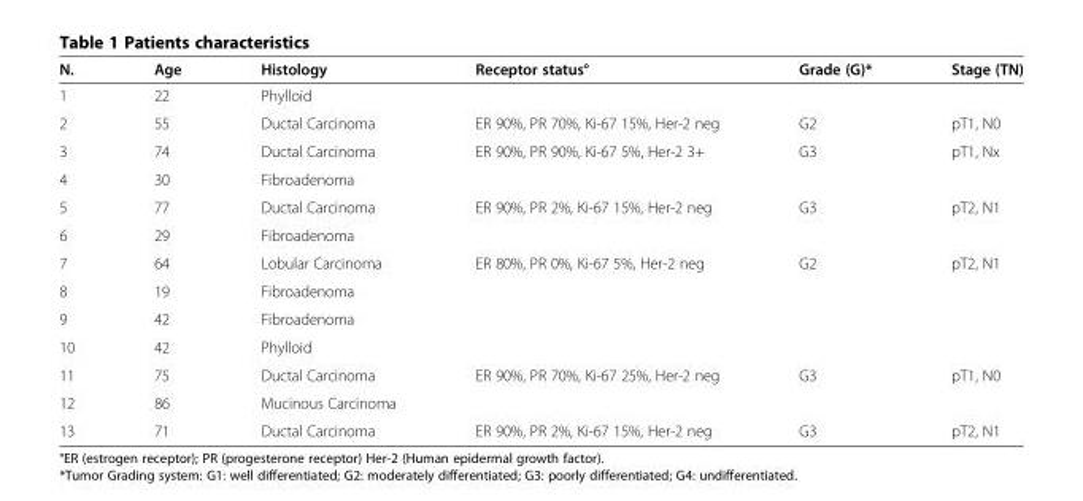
<table><thead><tr><td>N.</td><td>Age</td><td>Histology</td><td>Receptor status°</td><td>Grade (G)*</td><td>Stage (TN)</td></tr></thead><tbody><tr><td>1</td><td>22</td><td>Phylloid</td><td></td><td></td><td></td></tr><tr><td>2</td><td>55</td><td>Ductal Carcinoma</td><td>ER 90%, PR 70%, Ki-67 15%, Her-2 neg</td><td>G2</td><td>pT1, N0</td></tr><tr><td>3</td><td>74</td><td>Ductal Carcinoma</td><td>ER 90%, PR 90%, Ki-67 5%, Her-2 3+</td><td>G3</td><td>pT1, Nx</td></tr><tr><td>4</td><td>30</td><td>Fibroadenoma</td><td></td><td></td><td></td></tr><tr><td>5</td><td>77</td><td>Ductal Carcinoma</td><td>ER 90%, PR 2%, Ki-67 15%, Her-2 neg</td><td>G3</td><td>pT2, N1</td></tr><tr><td>6</td><td>29</td><td>Fibroadenoma</td><td></td><td></td><td></td></tr><tr><td>7</td><td>64</td><td>Lobular Carcinoma</td><td>ER 80%, PR 0%, Ki-67 5%, Her-2 neg</td><td>G2</td><td>pT2, N1</td></tr><tr><td>8</td><td>19</td><td>Fibroadenoma</td><td></td><td></td><td></td></tr><tr><td>9</td><td>42</td><td>Fibroadenoma</td><td></td><td></td><td></td></tr><tr><td>10</td><td>42</td><td>Phylloid</td><td></td><td></td><td></td></tr><tr><td>11</td><td>75</td><td>Ductal Carcinoma</td><td>ER 90%, PR 70%, Ki-67 25%, Her-2 neg</td><td>G3</td><td>pT1, N0</td></tr><tr><td>12</td><td>86</td><td>Mucinous Carcinoma</td><td></td><td></td><td></td></tr><tr><td>13</td><td>71</td><td>Ductal Carcinoma</td><td>ER 90%, PR 2%, Ki-67 15%, Her-2 neg</td><td>G3</td><td>pT2, N1</td></tr></tbody></table>